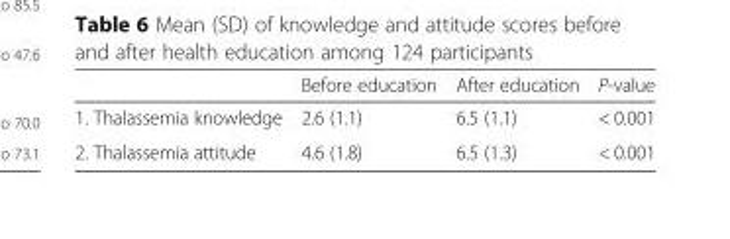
<table><thead><tr><td></td><td>Before education</td><td>After education</td><td>P-value</td></tr></thead><tbody><tr><td>1. Thalassemia knowledge</td><td>2.6 (1.1)</td><td>6.5 (1.1)</td><td>&lt; 0.001</td></tr><tr><td>2. Thalassemia attitude</td><td>4.6 (1.8)</td><td>6.5 (1.3)</td><td>&lt; 0.001</td></tr></tbody></table>